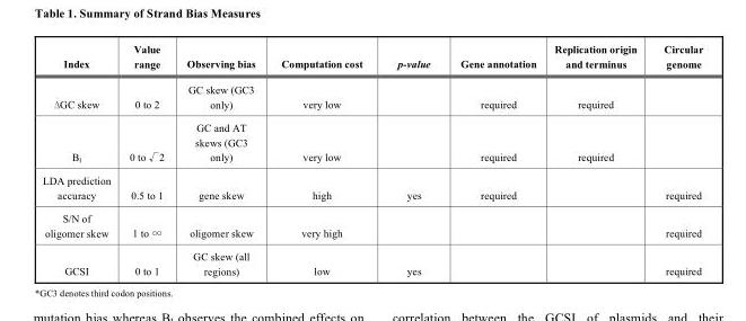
<table><thead><tr><td>Index</td><td>Value range</td><td>Observing bias</td><td>Computation cost</td><td>p-value</td><td>Gene annotation</td><td>Replication origin and terminus</td><td>Circular genome</td></tr></thead><tbody><tr><td>ΔGC skew</td><td>0 to 2</td><td>GC skew (GC3 only)</td><td>very low</td><td></td><td>required</td><td>required</td><td></td></tr><tr><td>B<sub>I</sub></td><td>0 to √2</td><td>GC and AT skews (GC3 only)</td><td>very low</td><td></td><td>required</td><td>required</td><td></td></tr><tr><td>LDA prediction accuracy</td><td>0.5 to 1</td><td>gene skew</td><td>high</td><td>yes</td><td>required</td><td></td><td>required</td></tr><tr><td>S/N of oligomer skew</td><td>1 to ∞</td><td>oligomer skew</td><td>very high</td><td></td><td></td><td></td><td>required</td></tr><tr><td>GCSI</td><td>0 to 1</td><td>GC skew (all regions)</td><td>low</td><td>yes</td><td></td><td></td><td>required</td></tr></tbody></table>